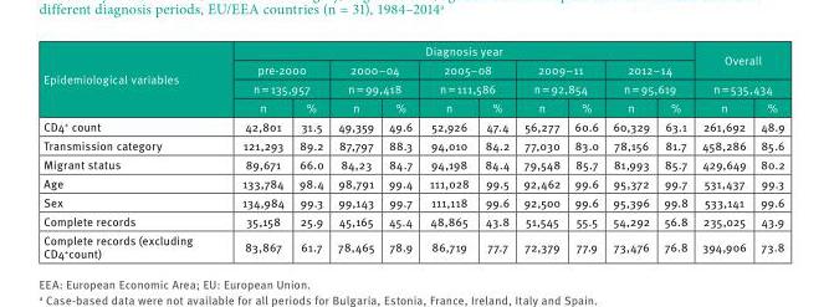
<table><thead><tr><td rowspan="4">Epidemiological variables</td><td colspan="10">Diagnosis year</td><td rowspan="3" colspan="2">Overall n = 535,434</td></tr><tr><td rowspan="2" colspan="2">pre-2000 n = 135,957</td><td rowspan="2" colspan="2">2000–04 n = 99,418</td><td rowspan="2" colspan="2">2005–08 n = 111,586</td><td rowspan="2" colspan="2">2009–11 n = 92,854</td><td rowspan="2" colspan="2">2012–14 n = 95,619</td></tr><tr></tr><tr><td>n</td><td>%</td><td>n</td><td>%</td><td>n</td><td>%</td><td>n</td><td>%</td><td>n</td><td>%</td><td>n</td><td>%</td></tr></thead><tbody><tr><td>CD4<sup>+</sup> count</td><td>42,801</td><td>31.5</td><td>49,359</td><td>49.6</td><td>52,926</td><td>47.4</td><td>56,277</td><td>60.6</td><td>60,329</td><td>63.1</td><td>261,692</td><td>48.9</td></tr><tr><td>Transmission category</td><td>121,293</td><td>89.2</td><td>87,797</td><td>88.3</td><td>94,010</td><td>84.2</td><td>77,030</td><td>83.0</td><td>78,156</td><td>81.7</td><td>458,286</td><td>85.6</td></tr><tr><td>Migrant status</td><td>89,671</td><td>66.0</td><td>84,23</td><td>84.7</td><td>94,198</td><td>84.4</td><td>79,548</td><td>85.7</td><td>81,993</td><td>85.7</td><td>429,649</td><td>80.2</td></tr><tr><td>Age</td><td>133,784</td><td>98.4</td><td>98,791</td><td>99.4</td><td>111,028</td><td>99.5</td><td>92,462</td><td>99.6</td><td>95,372</td><td>99.7</td><td>531,437</td><td>99.3</td></tr><tr><td>Sex</td><td>134,984</td><td>99.3</td><td>99,143</td><td>99.7</td><td>111,118</td><td>99.6</td><td>92,500</td><td>99.6</td><td>95,396</td><td>99.8</td><td>533,141</td><td>99.6</td></tr><tr><td>Complete records</td><td>35,158</td><td>25.9</td><td>45,165</td><td>45.4</td><td>48,865</td><td>43.8</td><td>51,545</td><td>55.5</td><td>54,292</td><td>56.8</td><td>235,025</td><td>43.9</td></tr><tr><td>Complete records (excluding CD4<sup>+</sup>count)</td><td>83,867</td><td>61.7</td><td>78,465</td><td>78.9</td><td>86,719</td><td>77.7</td><td>72,379</td><td>77.9</td><td>73,476</td><td>76.8</td><td>394,906</td><td>73.8</td></tr></tbody></table>